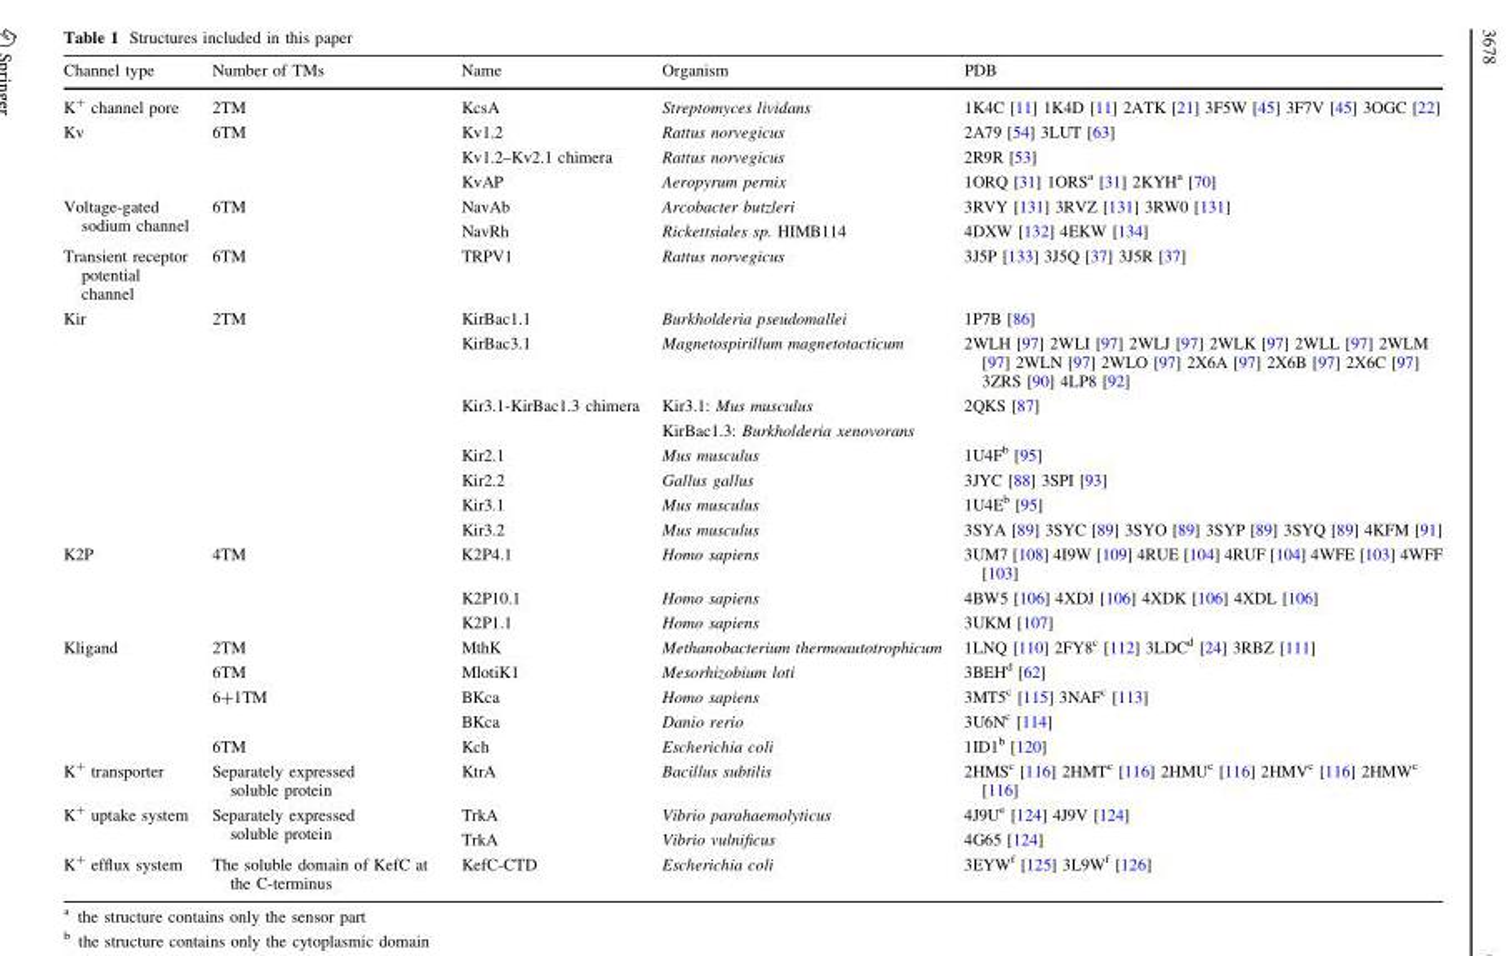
<table><thead><tr><td>Channel type</td><td>Number of TMs</td><td>Name</td><td>Organism</td><td>PDB</td></tr></thead><tbody><tr><td>K<sup>+</sup> channel pore</td><td>2TM</td><td>KcsA</td><td>Streptomyces lividans</td><td>1K4C [11] 1K4D [11] 2ATK [21] 3F5W [45] 3F7V [45] 3OGC [22]</td></tr><tr><td rowspan="3">Kv</td><td rowspan="3">6TM</td><td>Kv1.2</td><td>Rattus norvegicus</td><td>2A79 [54] 3LUT [63]</td></tr><tr><td>Kv1.2–Kv2.1 chimera</td><td>Rattus norvegicus</td><td>2R9R [53]</td></tr><tr><td>KvAP</td><td>Aeropyrum pernix</td><td>1ORQ [31] 1ORS<sup>a</sup> [31] 2KYH<sup>a</sup> [70]</td></tr><tr><td rowspan="2">Voltage-gated sodium channel</td><td rowspan="2">6TM</td><td>NavAb</td><td>Arcobacter butzleri</td><td>3RVY [131] 3RVZ [131] 3RW0 [131]</td></tr><tr><td>NavRh</td><td>Rickettsiales sp. HIMB114</td><td>4DXW [132] 4EKW [134]</td></tr><tr><td>Transient receptor potential channel</td><td>6TM</td><td>TRPV1</td><td>Rattus norvegicus</td><td>3J5P [133] 3J5Q [37] 3J5R [37]</td></tr><tr><td rowspan="7">Kir</td><td rowspan="7">2TM</td><td>KirBac1.1</td><td>Burkholderia pseudomallei</td><td>1P7B [86]</td></tr><tr><td>KirBac3.1</td><td>Magnetospirillum magnetotacticum</td><td>2WLH [97] 2WLI [97] 2WLJ [97] 2WLK [97] 2WLL [97] 2WLM [97] 2WLN [97] 2WLO [97] 2X6A [97] 2X6B [97] 2X6C [97] 3ZRS [90] 4LP8 [92]</td></tr><tr><td>Kir3.1-KirBac1.3 chimera</td><td>Kir3.1: Mus musculus KirBac1.3: Burkholderia xenovorans</td><td>2QKS [87]</td></tr><tr><td>Kir2.1</td><td>Mus musculus</td><td>1U4F<sup>b</sup> [95]</td></tr><tr><td>Kir2.2</td><td>Gallus gallus</td><td>3JYC [88] 3SPI [93]</td></tr><tr><td>Kir3.1</td><td>Mus musculus</td><td>1U4E<sup>b</sup> [95]</td></tr><tr><td>Kir3.2</td><td>Mus musculus</td><td>3SYA [89] 3SYC [89] 3SYO [89] 3SYP [89] 3SYQ [89] 4KFM [91]</td></tr><tr><td rowspan="3">K2P</td><td rowspan="3">4TM</td><td>K2P4.1</td><td>Homo sapiens</td><td>3UM7 [108] 4I9W [109] 4RUE [104] 4RUF [104] 4WFE [103] 4WFF [103]</td></tr><tr><td>K2P10.1</td><td>Homo sapiens</td><td>4BW5 [106] 4XDJ [106] 4XDK [106] 4XDL [106]</td></tr><tr><td>K2P1.1</td><td>Homo sapiens</td><td>3UKM [107]</td></tr><tr><td rowspan="5">Kligand</td><td>2TM</td><td>MthK</td><td>Methanobacterium thermoautotrophicum</td><td>1LNQ [110] 2FY8<sup>c</sup> [112] 3LDC<sup>d</sup> [24] 3RBZ [111]</td></tr><tr><td>6TM</td><td>MlotiK1</td><td>Mesorhizobium loti</td><td>3BEH<sup>d</sup> [62]</td></tr><tr><td>6+1TM</td><td>BKca</td><td>Homo sapiens</td><td>3MT5<sup>c</sup> [115] 3NAF<sup>c</sup> [113]</td></tr><tr><td></td><td>BKca</td><td>Danio rerio</td><td>3U6N<sup>c</sup> [114]</td></tr><tr><td>6TM</td><td>Kch</td><td>Escherichia coli</td><td>1ID1<sup>b</sup> [120]</td></tr><tr><td>K<sup>+</sup> transporter</td><td>Separately expressed soluble protein</td><td>KtrA</td><td>Bacillus subtilis</td><td>2HMS<sup>c</sup> [116] 2HMT<sup>c</sup> [116] 2HMU<sup>c</sup> [116] 2HMV<sup>c</sup> [116] 2HMW<sup>c</sup> [116]</td></tr><tr><td rowspan="2">K<sup>+</sup> uptake system</td><td rowspan="2">Separately expressed soluble protein</td><td>TrkA</td><td>Vibrio parahaemolyticus</td><td>4J9U<sup>e</sup> [124] 4J9V [124]</td></tr><tr><td>TrkA</td><td>Vibrio vulnificus</td><td>4G65 [124]</td></tr><tr><td>K<sup>+</sup> efflux system</td><td>The soluble domain of KefC at the C-terminus</td><td>KefC-CTD</td><td>Escherichia coli</td><td>3EYW<sup>f</sup> [125] 3L9W<sup>f</sup> [126]</td></tr></tbody></table>